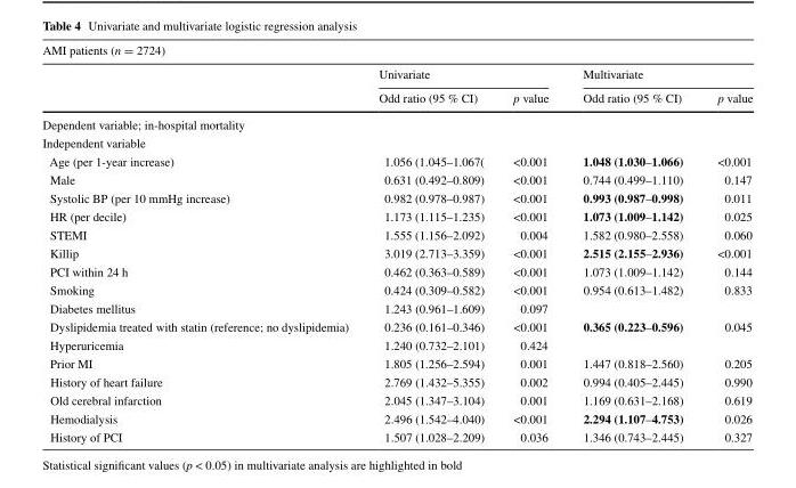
<table><thead><tr><td colspan="5">AMI patients (n = 2724)</td></tr><tr><td rowspan="2"></td><td colspan="2">Univariate</td><td colspan="2">Multivariate</td></tr><tr><td>Odd ratio (95 % CI)</td><td>p value</td><td>Odd ratio (95 % CI)</td><td>p value</td></tr></thead><tbody><tr><td colspan="5">Dependent variable; in-hospital mortality</td></tr><tr><td colspan="5">Independent variable</td></tr><tr><td>Age (per 1-year increase)</td><td>1.056 (1.045–1.067(</td><td>&lt;0.001</td><td>1.048 (1.030–1.066)</td><td>&lt;0.001</td></tr><tr><td>Male</td><td>0.631 (0.492–0.809)</td><td>&lt;0.001</td><td>0.744 (0.499–1.110)</td><td>0.147</td></tr><tr><td>Systolic BP (per 10 mmHg increase)</td><td>0.982 (0.978–0.987)</td><td>&lt;0.001</td><td>0.993 (0.987–0.998)</td><td>0.011</td></tr><tr><td>HR (per decile)</td><td>1.173 (1.115–1.235)</td><td>&lt;0.001</td><td>1.073 (1.009–1.142)</td><td>0.025</td></tr><tr><td>STEMI</td><td>1.555 (1.156–2.092)</td><td>0.004</td><td>1.582 (0.980–2.558)</td><td>0.060</td></tr><tr><td>Killip</td><td>3.019 (2.713–3.359)</td><td>&lt;0.001</td><td>2.515 (2.155–2.936)</td><td>&lt;0.001</td></tr><tr><td>PCI within 24 h</td><td>0.462 (0.363–0.589)</td><td>&lt;0.001</td><td>1.073 (1.009–1.142)</td><td>0.144</td></tr><tr><td>Smoking</td><td>0.424 (0.309–0.582)</td><td>&lt;0.001</td><td>0.954 (0.613–1.482)</td><td>0.833</td></tr><tr><td>Diabetes mellitus</td><td>1.243 (0.961–1.609)</td><td>0.097</td><td></td><td></td></tr><tr><td>Dyslipidemia treated with statin (reference; no dyslipidemia)</td><td>0.236 (0.161–0.346)</td><td>&lt;0.001</td><td>0.365 (0.223–0.596)</td><td>0.045</td></tr><tr><td>Hyperuricemia</td><td>1.240 (0.732–2.101)</td><td>0.424</td><td></td><td></td></tr><tr><td>Prior MI</td><td>1.805 (1.256–2.594)</td><td>0.001</td><td>1.447 (0.818–2.560)</td><td>0.205</td></tr><tr><td>History of heart failure</td><td>2.769 (1.432–5.355)</td><td>0.002</td><td>0.994 (0.405–2.445)</td><td>0.990</td></tr><tr><td>Old cerebral infarction</td><td>2.045 (1.347–3.104)</td><td>0.001</td><td>1.169 (0.631–2.168)</td><td>0.619</td></tr><tr><td>Hemodialysis</td><td>2.496 (1.542–4.040)</td><td>&lt;0.001</td><td>2.294 (1.107–4.753)</td><td>0.026</td></tr><tr><td>History of PCI</td><td>1.507 (1.028–2.209)</td><td>0.036</td><td>1.346 (0.743–2.445)</td><td>0.327</td></tr></tbody></table>